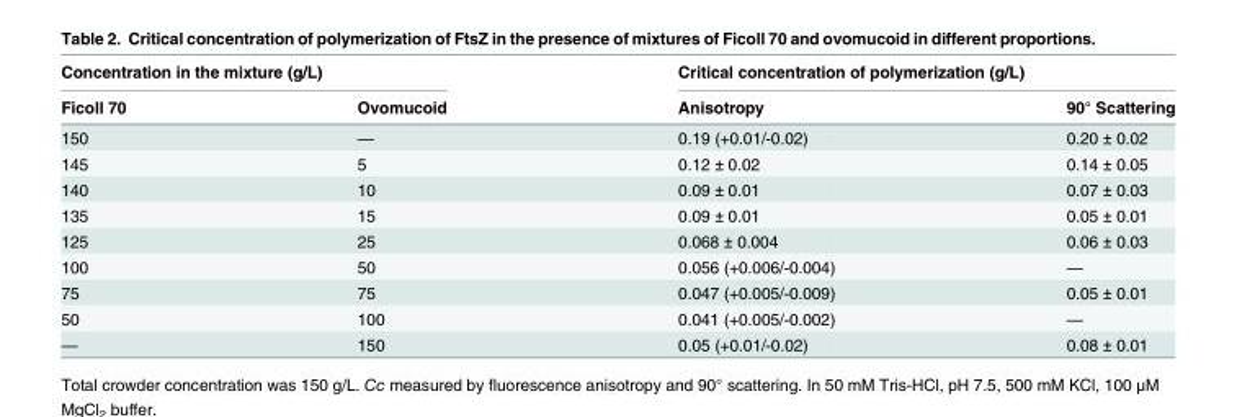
<table><thead><tr><td colspan="2">Concentration in the mixture (g/L)</td><td colspan="2">Critical concentration of polymerization (g/L)</td></tr><tr><td>Ficoll 70</td><td>Ovomucoid</td><td>Anisotropy</td><td>90° Scattering</td></tr></thead><tbody><tr><td>150</td><td>—</td><td>0.19 (+0.01/-0.02)</td><td>0.20 ± 0.02</td></tr><tr><td>145</td><td>5</td><td>0.12 ± 0.02</td><td>0.14 ± 0.05</td></tr><tr><td>140</td><td>10</td><td>0.09 ± 0.01</td><td>0.07 ± 0.03</td></tr><tr><td>135</td><td>15</td><td>0.09 ± 0.01</td><td>0.05 ± 0.01</td></tr><tr><td>125</td><td>25</td><td>0.068 ± 0.004</td><td>0.06 ± 0.03</td></tr><tr><td>100</td><td>50</td><td>0.056 (+0.006/-0.004)</td><td>—</td></tr><tr><td>75</td><td>75</td><td>0.047 (+0.005/-0.009)</td><td>0.05 ± 0.01</td></tr><tr><td>50</td><td>100</td><td>0.041 (+0.005/-0.002)</td><td>—</td></tr><tr><td>—</td><td>150</td><td>0.05 (+0.01/-0.02)</td><td>0.08 ± 0.01</td></tr></tbody></table>